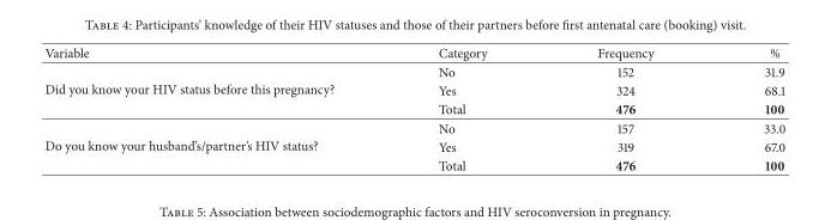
<table><thead><tr><td>Variable</td><td>Category</td><td>Frequency</td><td>%</td></tr></thead><tbody><tr><td rowspan="3">Did you know your HIV status before this pregnancy?</td><td>No</td><td>152</td><td>31.9</td></tr><tr><td>Yes</td><td>324</td><td>68.1</td></tr><tr><td>Total</td><td>476</td><td>100</td></tr><tr><td rowspan="3">Do you know your husband’s/partner’s HIV status?</td><td>No</td><td>157</td><td>33.0</td></tr><tr><td>Yes</td><td>319</td><td>67.0</td></tr><tr><td>Total</td><td>476</td><td>100</td></tr></tbody></table>